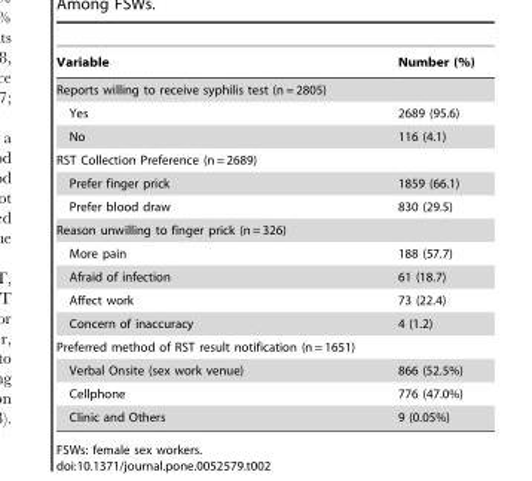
<table><thead><tr><td>Variable</td><td>Number (%)</td></tr></thead><tbody><tr><td colspan="2">Reports willing to receive syphilis test (n = 2805)</td></tr><tr><td>Yes</td><td>2689 (95.6)</td></tr><tr><td>No</td><td>116 (4.1)</td></tr><tr><td colspan="2">RST Collection Preference (n = 2689)</td></tr><tr><td>Prefer finger prick</td><td>1859 (66.1)</td></tr><tr><td>Prefer blood draw</td><td>830 (29.5)</td></tr><tr><td colspan="2">Reason unwilling to finger prick (n = 326)</td></tr><tr><td>More pain</td><td>188 (57.7)</td></tr><tr><td>Afraid of infection</td><td>61 (18.7)</td></tr><tr><td>Affect work</td><td>73 (22.4)</td></tr><tr><td>Concern of inaccuracy</td><td>4 (1.2)</td></tr><tr><td colspan="2">Preferred method of RST result notification (n = 1651)</td></tr><tr><td>Verbal Onsite (sex work venue)</td><td>866 (52.5%)</td></tr><tr><td>Cellphone</td><td>776 (47.0%)</td></tr><tr><td>Clinic and Others</td><td>9 (0.05%)</td></tr></tbody></table>